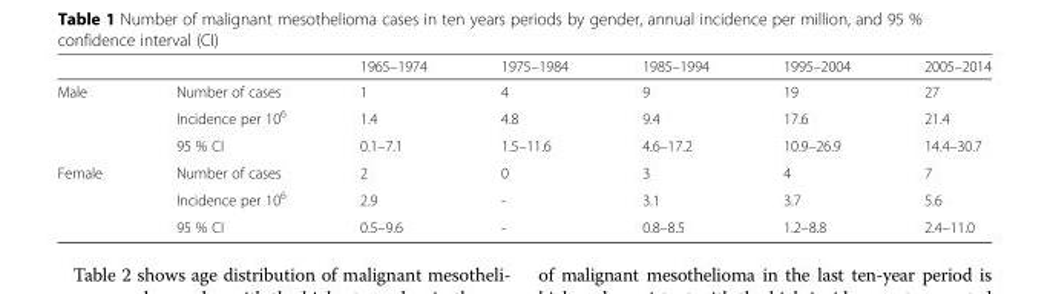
<table><thead><tr><td></td><td></td><td>1965–1974</td><td>1975–1984</td><td>1985–1994</td><td>1995–2004</td><td>2005–2014</td></tr></thead><tbody><tr><td rowspan="3">Male</td><td>Number of cases</td><td>1</td><td>4</td><td>9</td><td>19</td><td>27</td></tr><tr><td>Incidence per 10<sup>6</sup></td><td>1.4</td><td>4.8</td><td>9.4</td><td>17.6</td><td>21.4</td></tr><tr><td>95 % CI</td><td>0.1–7.1</td><td>1.5–11.6</td><td>4.6–17.2</td><td>10.9–26.9</td><td>14.4–30.7</td></tr><tr><td rowspan="3">Female</td><td>Number of cases</td><td>2</td><td>0</td><td>3</td><td>4</td><td>7</td></tr><tr><td>Incidence per 10<sup>6</sup></td><td>2.9</td><td>-</td><td>3.1</td><td>3.7</td><td>5.6</td></tr><tr><td>95 % CI</td><td>0.5–9.6</td><td>-</td><td>0.8–8.5</td><td>1.2–8.8</td><td>2.4–11.0</td></tr></tbody></table>